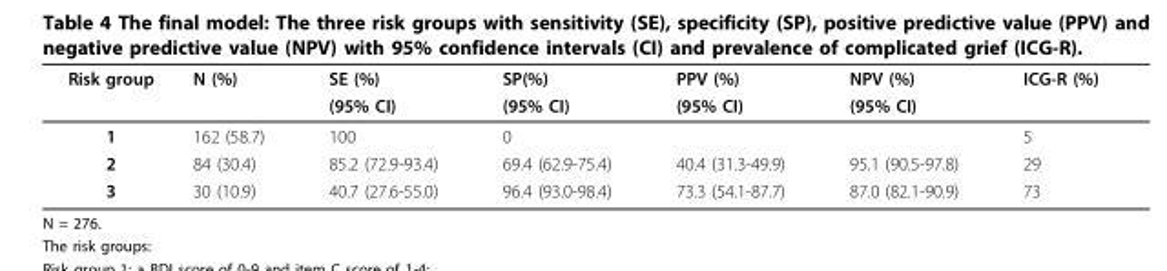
<table><thead><tr><td rowspan="2">Risk group</td><td rowspan="2">N (%)</td><td rowspan="2">SE (%) (95% CI)</td><td rowspan="2">SP(%) (95% CI)</td><td rowspan="2">PPV (%) (95% CI)</td><td rowspan="2">NPV (%) (95% CI)</td><td rowspan="2">ICG-R (%)</td></tr><tr></tr></thead><tbody><tr><td>1</td><td>162 (58.7)</td><td>100</td><td>0</td><td></td><td></td><td>5</td></tr><tr><td>2</td><td>84 (30.4)</td><td>85.2 (72.9-93.4)</td><td>69.4 (62.9-75.4)</td><td>40.4 (31.3-49.9)</td><td>95.1 (90.5-97.8)</td><td>29</td></tr><tr><td>3</td><td>30 (10.9)</td><td>40.7 (27.6-55.0)</td><td>96.4 (93.0-98.4)</td><td>73.3 (54.1-87.7)</td><td>87.0 (82.1-90.9)</td><td>73</td></tr></tbody></table>